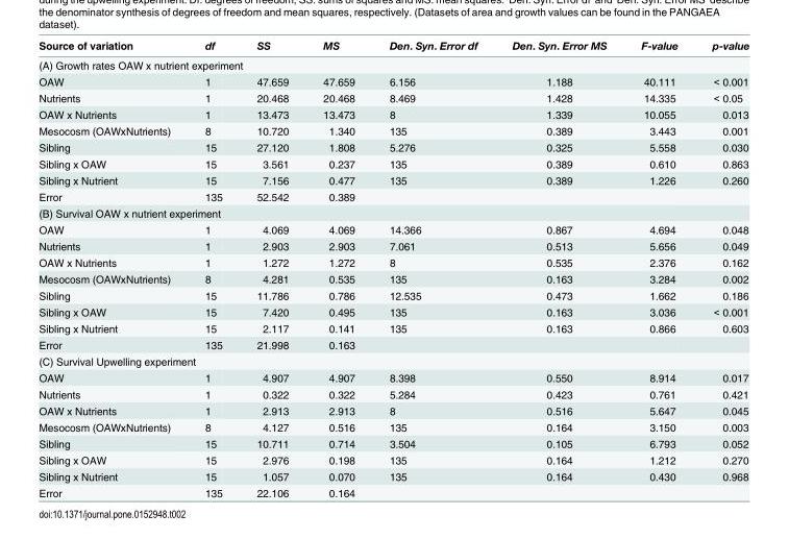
<table><thead><tr><td>Source of variation</td><td>df</td><td>SS</td><td>MS</td><td>Den. Syn. Error df</td><td>Den. Syn. Error MS</td><td>F-value</td><td>p-value</td></tr></thead><tbody><tr><td colspan="8">(A) Growth rates OAW x nutrient experiment</td></tr><tr><td>OAW</td><td>1</td><td>47.659</td><td>47.659</td><td>6.156</td><td>1.188</td><td>40.111</td><td>&lt; 0.001</td></tr><tr><td>Nutrients</td><td>1</td><td>20.468</td><td>20.468</td><td>8.469</td><td>1.428</td><td>14.335</td><td>&lt; 0.05</td></tr><tr><td>OAW x Nutrients</td><td>1</td><td>13.473</td><td>13.473</td><td>8</td><td>1.339</td><td>10.055</td><td>0.013</td></tr><tr><td>Mesocosm (OAWxNutrients)</td><td>8</td><td>10.720</td><td>1.340</td><td>135</td><td>0.389</td><td>3.443</td><td>0.001</td></tr><tr><td>Sibling</td><td>15</td><td>27.120</td><td>1.808</td><td>5.276</td><td>0.325</td><td>5.558</td><td>0.030</td></tr><tr><td>Sibling x OAW</td><td>15</td><td>3.561</td><td>0.237</td><td>135</td><td>0.389</td><td>0.610</td><td>0.863</td></tr><tr><td>Sibling x Nutrient</td><td>15</td><td>7.156</td><td>0.477</td><td>135</td><td>0.389</td><td>1.226</td><td>0.260</td></tr><tr><td>Error</td><td>135</td><td>52.542</td><td>0.389</td><td></td><td></td><td></td><td></td></tr><tr><td colspan="8">(B) Survival OAW x nutrient experiment</td></tr><tr><td>OAW</td><td>1</td><td>4.069</td><td>4.069</td><td>14.366</td><td>0.867</td><td>4.694</td><td>0.048</td></tr><tr><td>Nutrients</td><td>1</td><td>2.903</td><td>2.903</td><td>7.061</td><td>0.513</td><td>5.656</td><td>0.049</td></tr><tr><td>OAW x Nutrients</td><td>1</td><td>1.272</td><td>1.272</td><td>8</td><td>0.535</td><td>2.376</td><td>0.162</td></tr><tr><td>Mesocosm (OAWxNutrients)</td><td>8</td><td>4.281</td><td>0.535</td><td>135</td><td>0.163</td><td>3.284</td><td>0.002</td></tr><tr><td>Sibling</td><td>15</td><td>11.786</td><td>0.786</td><td>12.535</td><td>0.473</td><td>1.662</td><td>0.186</td></tr><tr><td>Sibling x OAW</td><td>15</td><td>7.420</td><td>0.495</td><td>135</td><td>0.163</td><td>3.036</td><td>&lt; 0.001</td></tr><tr><td>Sibling x Nutrient</td><td>15</td><td>2.117</td><td>0.141</td><td>135</td><td>0.163</td><td>0.866</td><td>0.603</td></tr><tr><td>Error</td><td>135</td><td>21.998</td><td>0.163</td><td></td><td></td><td></td><td></td></tr><tr><td colspan="8">(C) Survival Upwelling experiment</td></tr><tr><td>OAW</td><td>1</td><td>4.907</td><td>4.907</td><td>8.398</td><td>0.550</td><td>8.914</td><td>0.017</td></tr><tr><td>Nutrients</td><td>1</td><td>0.322</td><td>0.322</td><td>5.284</td><td>0.423</td><td>0.761</td><td>0.421</td></tr><tr><td>OAW x Nutrients</td><td>1</td><td>2.913</td><td>2.913</td><td>8</td><td>0.516</td><td>5.647</td><td>0.045</td></tr><tr><td>Mesocosm (OAWxNutrients)</td><td>8</td><td>4.127</td><td>0.516</td><td>135</td><td>0.164</td><td>3.150</td><td>0.003</td></tr><tr><td>Sibling</td><td>15</td><td>10.711</td><td>0.714</td><td>3.504</td><td>0.105</td><td>6.793</td><td>0.052</td></tr><tr><td>Sibling x OAW</td><td>15</td><td>2.976</td><td>0.198</td><td>135</td><td>0.164</td><td>1.212</td><td>0.270</td></tr><tr><td>Sibling x Nutrient</td><td>15</td><td>1.057</td><td>0.070</td><td>135</td><td>0.164</td><td>0.430</td><td>0.968</td></tr><tr><td>Error</td><td>135</td><td>22.106</td><td>0.164</td><td></td><td></td><td></td><td></td></tr></tbody></table>